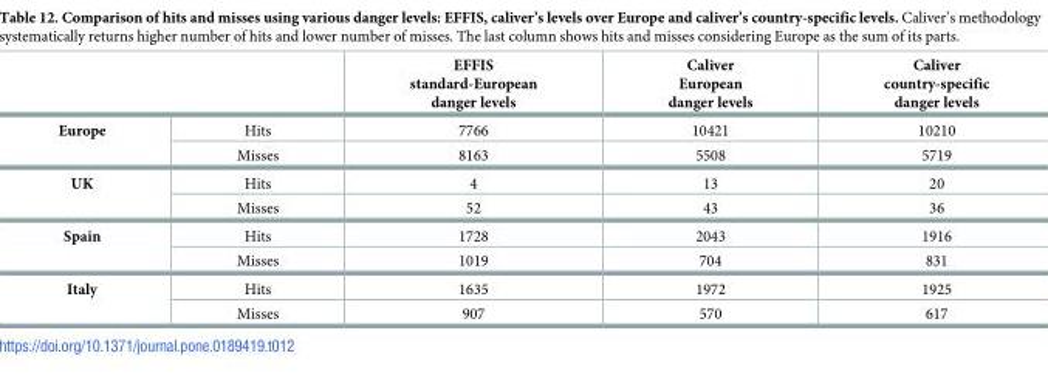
<table><thead><tr><td></td><td></td><td>EFFIS standard-European danger levels</td><td>Caliver European danger levels</td><td>Caliver country-specific danger levels</td></tr></thead><tbody><tr><td rowspan="2">Europe</td><td>Hits</td><td>7766</td><td>10421</td><td>10210</td></tr><tr><td>Misses</td><td>8163</td><td>5508</td><td>5719</td></tr><tr><td rowspan="2">UK</td><td>Hits</td><td>4</td><td>13</td><td>20</td></tr><tr><td>Misses</td><td>52</td><td>43</td><td>36</td></tr><tr><td rowspan="2">Spain</td><td>Hits</td><td>1728</td><td>2043</td><td>1916</td></tr><tr><td>Misses</td><td>1019</td><td>704</td><td>831</td></tr><tr><td rowspan="2">Italy</td><td>Hits</td><td>1635</td><td>1972</td><td>1925</td></tr><tr><td>Misses</td><td>907</td><td>570</td><td>617</td></tr></tbody></table>